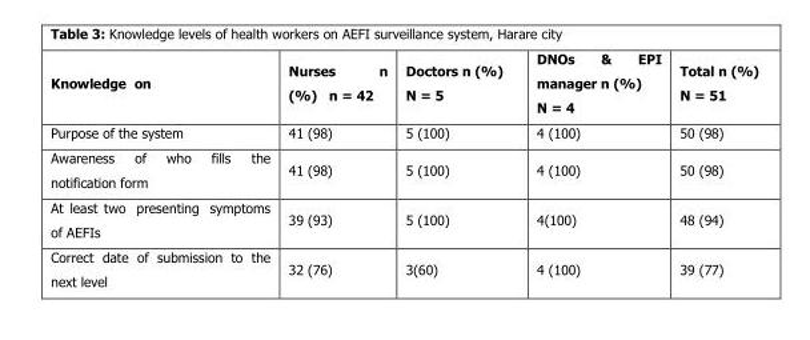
<table><thead><tr><td>Knowledge on</td><td>Nurses n (%) n = 42</td><td>Doctors n (%) N = 5</td><td>DNOs &amp; EPI manager n (%) N = 4</td><td>Total n (%) N = 51</td></tr></thead><tbody><tr><td>Purpose of the system</td><td>41 (98)</td><td>5 (100)</td><td>4 (100)</td><td>50 (98)</td></tr><tr><td>Awareness of who fills the notification form</td><td>41 (98)</td><td>5 (100)</td><td>4 (100)</td><td>50 (98)</td></tr><tr><td>At least two presenting symptoms of AEFIs</td><td>39 (93)</td><td>5 (100)</td><td>4(100)</td><td>48 (94)</td></tr><tr><td>Correct date of submission to the next level</td><td>32 (76)</td><td>3(60)</td><td>4 (100)</td><td>39 (77)</td></tr></tbody></table>